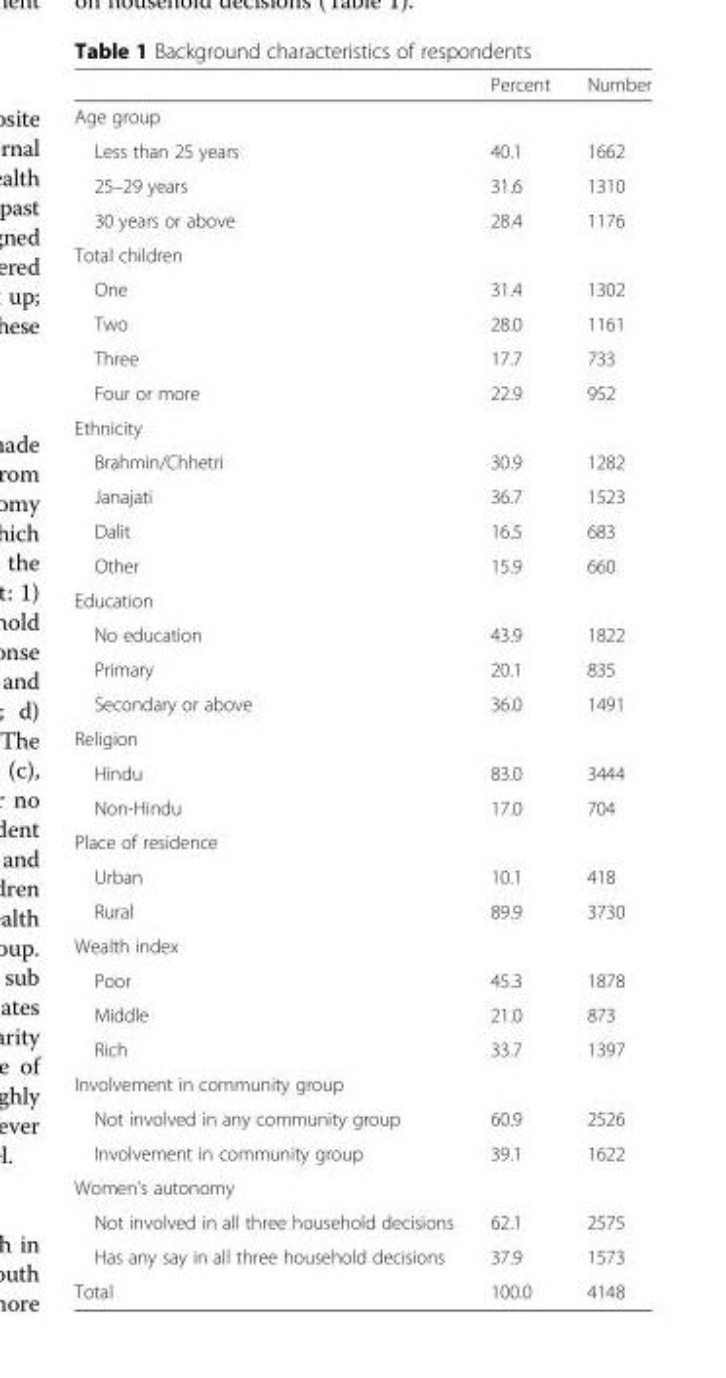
<table><thead><tr><td></td><td>Percent</td><td>Number</td></tr></thead><tbody><tr><td colspan="3">Age group</td></tr><tr><td>Less than 25 years</td><td>40.1</td><td>1662</td></tr><tr><td>25–29 years</td><td>31.6</td><td>1310</td></tr><tr><td>30 years or above</td><td>28.4</td><td>1176</td></tr><tr><td colspan="3">Total children</td></tr><tr><td>One</td><td>31.4</td><td>1302</td></tr><tr><td>Two</td><td>28.0</td><td>1161</td></tr><tr><td>Three</td><td>17.7</td><td>733</td></tr><tr><td>Four or more</td><td>22.9</td><td>952</td></tr><tr><td colspan="3">Ethnicity</td></tr><tr><td>Brahmin/Chhetri</td><td>30.9</td><td>1282</td></tr><tr><td>Janajati</td><td>36.7</td><td>1523</td></tr><tr><td>Dalit</td><td>16.5</td><td>683</td></tr><tr><td>Other</td><td>15.9</td><td>660</td></tr><tr><td colspan="3">Education</td></tr><tr><td>No education</td><td>43.9</td><td>1822</td></tr><tr><td>Primary</td><td>20.1</td><td>835</td></tr><tr><td>Secondary or above</td><td>36.0</td><td>1491</td></tr><tr><td colspan="3">Religion</td></tr><tr><td>Hindu</td><td>83.0</td><td>3444</td></tr><tr><td>Non-Hindu</td><td>17.0</td><td>704</td></tr><tr><td colspan="3">Place of residence</td></tr><tr><td>Urban</td><td>10.1</td><td>418</td></tr><tr><td>Rural</td><td>89.9</td><td>3730</td></tr><tr><td colspan="3">Wealth index</td></tr><tr><td>Poor</td><td>45.3</td><td>1878</td></tr><tr><td>Middle</td><td>21.0</td><td>873</td></tr><tr><td>Rich</td><td>33.7</td><td>1397</td></tr><tr><td colspan="3">Involvement in community group</td></tr><tr><td>Not involved in any community group</td><td>60.9</td><td>2526</td></tr><tr><td>Involvement in community group</td><td>39.1</td><td>1622</td></tr><tr><td colspan="3">Women’s autonomy</td></tr><tr><td>Not involved in all three household decisions</td><td>62.1</td><td>2575</td></tr><tr><td>Has any say in all three household decisions</td><td>37.9</td><td>1573</td></tr><tr><td>Total</td><td>100.0</td><td>4148</td></tr></tbody></table>